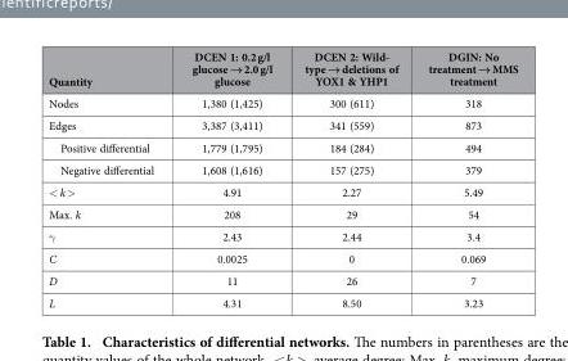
<table><thead><tr><td>Quantity</td><td>DCEN 1: 0.2 g/l glucose → 2.0 g/l glucose</td><td>DCEN 2: Wild- type → deletions of YOX1 &amp; YHP1</td><td>DGIN: No treatment → MMS treatment</td></tr></thead><tbody><tr><td>Nodes</td><td>1,380 (1,425)</td><td>300 (611)</td><td>318</td></tr><tr><td>Edges</td><td>3,387 (3,411)</td><td>341 (559)</td><td>873</td></tr><tr><td>Positive differential</td><td>1,779 (1,795)</td><td>184 (284)</td><td>494</td></tr><tr><td>Negative differential</td><td>1,608 (1,616)</td><td>157 (275)</td><td>379</td></tr><tr><td>&lt; k &gt;</td><td>4.91</td><td>2.27</td><td>5.49</td></tr><tr><td>Max. k</td><td>208</td><td>29</td><td>54</td></tr><tr><td>γ</td><td>2.43</td><td>2.44</td><td>3.4</td></tr><tr><td>C</td><td>0.0025</td><td>0</td><td>0.069</td></tr><tr><td>D</td><td>11</td><td>26</td><td>7</td></tr><tr><td>L</td><td>4.31</td><td>8.50</td><td>3.23</td></tr></tbody></table>